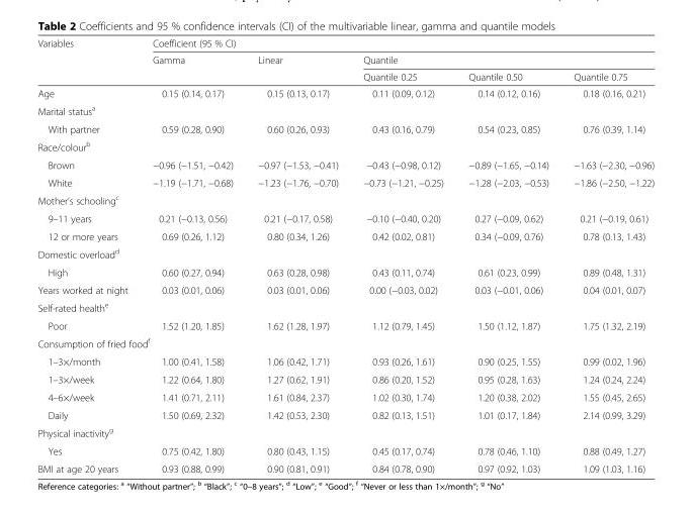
<table><thead><tr><td rowspan="3">Variables</td><td colspan="5">Coefficient (95 % CI)</td></tr><tr><td rowspan="2">Gamma</td><td rowspan="2">Linear</td><td colspan="3">Quantile</td></tr><tr><td>Quantile 0.25</td><td>Quantile 0.50</td><td>Quantile 0.75</td></tr></thead><tbody><tr><td>Age</td><td>0.15 (0.14, 0.17)</td><td>0.15 (0.13, 0.17)</td><td>0.11 (0.09, 0.12)</td><td>0.14 (0.12, 0.16)</td><td>0.18 (0.16, 0.21)</td></tr><tr><td colspan="6">Marital status<sup>a</sup></td></tr><tr><td>With partner</td><td>0.59 (0.28, 0.90)</td><td>0.60 (0.26, 0.93)</td><td>0.43 (0.16, 0.79)</td><td>0.54 (0.23, 0.85)</td><td>0.76 (0.39, 1.14)</td></tr><tr><td colspan="6">Race/colour<sup>b</sup></td></tr><tr><td>Brown</td><td>−0.96 (−1.51, −0.42)</td><td>−0.97 (−1.53, −0.41)</td><td>−0.43 (−0.98, 0.12)</td><td>−0.89 (−1.65, −0.14)</td><td>−1.63 (−2.30, −0.96)</td></tr><tr><td>White</td><td>−1.19 (−1.71, −0.68)</td><td>−1.23 (−1.76, −0.70)</td><td>−0.73 (−1.21, −0.25)</td><td>−1.28 (−2.03, −0.53)</td><td>−1.86 (−2.50, −1.22)</td></tr><tr><td colspan="6">Mother’s schooling<sup>c</sup></td></tr><tr><td>9–11 years</td><td>0.21 (−0.13, 0.56)</td><td>0.21 (−0.17, 0.58)</td><td>−0.10 (−0.40, 0.20)</td><td>0.27 (−0.09, 0.62)</td><td>0.21 (−0.19, 0.61)</td></tr><tr><td>12 or more years</td><td>0.69 (0.26, 1.12)</td><td>0.80 (0.34, 1.26)</td><td>0.42 (0.02, 0.81)</td><td>0.34 (−0.09, 0.76)</td><td>0.78 (0.13, 1.43)</td></tr><tr><td colspan="6">Domestic overload<sup>d</sup></td></tr><tr><td>High</td><td>0.60 (0.27, 0.94)</td><td>0.63 (0.28, 0.98)</td><td>0.43 (0.11, 0.74)</td><td>0.61 (0.23, 0.99)</td><td>0.89 (0.48, 1.31)</td></tr><tr><td>Years worked at night</td><td>0.03 (0.01, 0.06)</td><td>0.03 (0.01, 0.06)</td><td>0.00 (−0.03, 0.02)</td><td>0.03 (−0.01, 0.06)</td><td>0.04 (0.01, 0.07)</td></tr><tr><td colspan="6">Self-rated health<sup>e</sup></td></tr><tr><td>Poor</td><td>1.52 (1.20, 1.85)</td><td>1.62 (1.28, 1.97)</td><td>1.12 (0.79, 1.45)</td><td>1.50 (1.12, 1.87)</td><td>1.75 (1.32, 2.19)</td></tr><tr><td colspan="6">Consumption of fried food<sup>f</sup></td></tr><tr><td>1–3×/month</td><td>1.00 (0.41, 1.58)</td><td>1.06 (0.42, 1.71)</td><td>0.93 (0.26, 1.61)</td><td>0.90 (0.25, 1.55)</td><td>0.99 (0.02, 1.96)</td></tr><tr><td>1–3×/week</td><td>1.22 (0.64, 1.80)</td><td>1.27 (0.62, 1.91)</td><td>0.86 (0.20, 1.52)</td><td>0.95 (0.28, 1.63)</td><td>1.24 (0.24, 2.24)</td></tr><tr><td>4–6×/week</td><td>1.41 (0.71, 2.11)</td><td>1.61 (0.84, 2.37)</td><td>1.02 (0.30, 1.74)</td><td>1.20 (0.38, 2.02)</td><td>1.55 (0.45, 2.65)</td></tr><tr><td>Daily</td><td>1.50 (0.69, 2.32)</td><td>1.42 (0.53, 2.30)</td><td>0.82 (0.13, 1.51)</td><td>1.01 (0.17, 1.84)</td><td>2.14 (0.99, 3.29)</td></tr><tr><td colspan="6">Physical inactivity<sup>g</sup></td></tr><tr><td>Yes</td><td>0.75 (0.42, 1.80)</td><td>0.80 (0.43, 1.15)</td><td>0.45 (0.17, 0.74)</td><td>0.78 (0.46, 1.10)</td><td>0.88 (0.49, 1.27)</td></tr><tr><td>BMI at age 20 years</td><td>0.93 (0.88, 0.99)</td><td>0.90 (0.81, 0.91)</td><td>0.84 (0.78, 0.90)</td><td>0.97 (0.92, 1.03)</td><td>1.09 (1.03, 1.16)</td></tr></tbody></table>